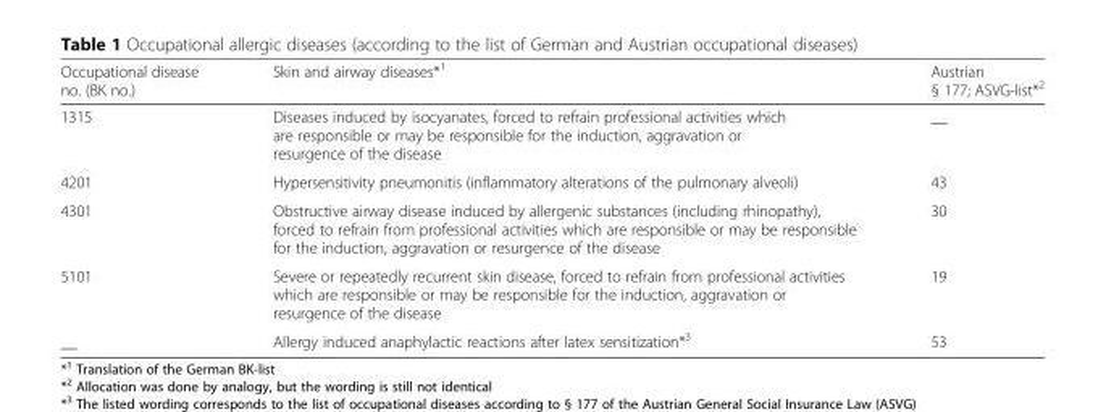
<table><thead><tr><td>Occupational disease no. (BK no.)</td><td>Skin and airway diseases*<sup>1</sup></td><td>Austrian § 177; ASVG-list*<sup>2</sup></td></tr></thead><tbody><tr><td>1315</td><td>Diseases induced by isocyanates, forced to refrain professional activities which are responsible or may be responsible for the induction, aggravation or resurgence of the disease</td><td>__</td></tr><tr><td>4201</td><td>Hypersensitivity pneumonitis (inflammatory alterations of the pulmonary alveoli)</td><td>43</td></tr><tr><td>4301</td><td>Obstructive airway disease induced by allergenic substances (including rhinopathy), forced to refrain from professional activities which are responsible or may be responsible for the induction, aggravation or resurgence of the disease</td><td>30</td></tr><tr><td>5101</td><td>Severe or repeatedly recurrent skin disease, forced to refrain from professional activities which are responsible or may be responsible for the induction, aggravation or resurgence of the disease</td><td>19</td></tr><tr><td>__</td><td>Allergy induced anaphylactic reactions after latex sensitization*<sup>3</sup></td><td>53</td></tr></tbody></table>